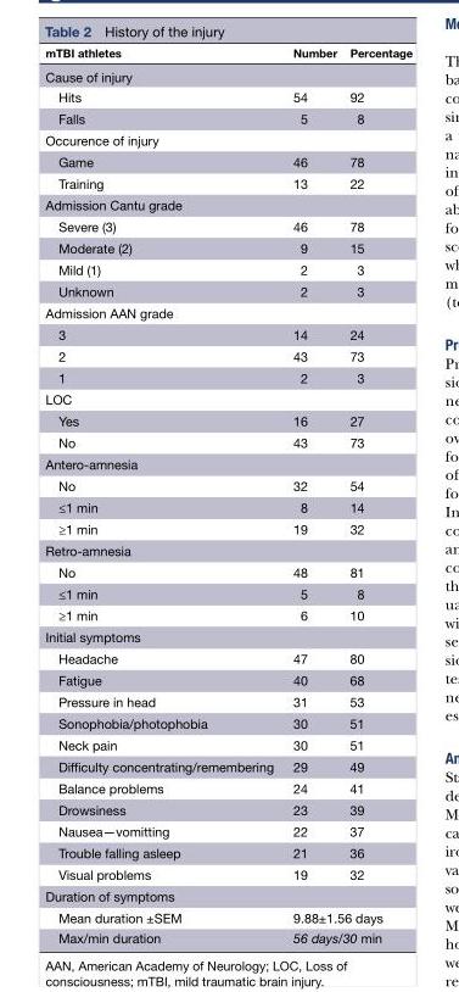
<table><thead><tr><td>mTBI athletes</td><td>Number</td><td>Percentage</td></tr></thead><tbody><tr><td colspan="3">Cause of injury</td></tr><tr><td>Hits</td><td>54</td><td>92</td></tr><tr><td>Falls</td><td>5</td><td>8</td></tr><tr><td colspan="3">Occurence of injury</td></tr><tr><td>Game</td><td>46</td><td>78</td></tr><tr><td>Training</td><td>13</td><td>22</td></tr><tr><td colspan="3">Admission Cantu grade</td></tr><tr><td>Severe (3)</td><td>46</td><td>78</td></tr><tr><td>Moderate (2)</td><td>9</td><td>15</td></tr><tr><td>Mild (1)</td><td>2</td><td>3</td></tr><tr><td>Unknown</td><td>2</td><td>3</td></tr><tr><td colspan="3">Admission AAN grade</td></tr><tr><td>3</td><td>14</td><td>24</td></tr><tr><td>2</td><td>43</td><td>73</td></tr><tr><td>1</td><td>2</td><td>3</td></tr><tr><td colspan="3">LOC</td></tr><tr><td>Yes</td><td>16</td><td>27</td></tr><tr><td>No</td><td>43</td><td>73</td></tr><tr><td colspan="3">Antero-amnesia</td></tr><tr><td>No</td><td>32</td><td>54</td></tr><tr><td>≤1 min</td><td>8</td><td>14</td></tr><tr><td>≥1 min</td><td>19</td><td>32</td></tr><tr><td colspan="3">Retro-amnesia</td></tr><tr><td>No</td><td>48</td><td>81</td></tr><tr><td>≤1 min</td><td>5</td><td>8</td></tr><tr><td>≥1 min</td><td>6</td><td>10</td></tr><tr><td colspan="3">Initial symptoms</td></tr><tr><td>Headache</td><td>47</td><td>80</td></tr><tr><td>Fatigue</td><td>40</td><td>68</td></tr><tr><td>Pressure in head</td><td>31</td><td>53</td></tr><tr><td>Sonophobia/photophobia</td><td>30</td><td>51</td></tr><tr><td>Neck pain</td><td>30</td><td>51</td></tr><tr><td>Difficulty concentrating/remembering</td><td>29</td><td>49</td></tr><tr><td>Balance problems</td><td>24</td><td>41</td></tr><tr><td>Drowsiness</td><td>23</td><td>39</td></tr><tr><td>Nausea—vomitting</td><td>22</td><td>37</td></tr><tr><td>Trouble falling asleep</td><td>21</td><td>36</td></tr><tr><td>Visual problems</td><td>19</td><td>32</td></tr><tr><td colspan="3">Duration of symptoms</td></tr><tr><td>Mean duration ±SEM</td><td colspan="2">9.88±1.56 days</td></tr><tr><td>Max/min duration</td><td colspan="2">56 days/30 min</td></tr></tbody></table>